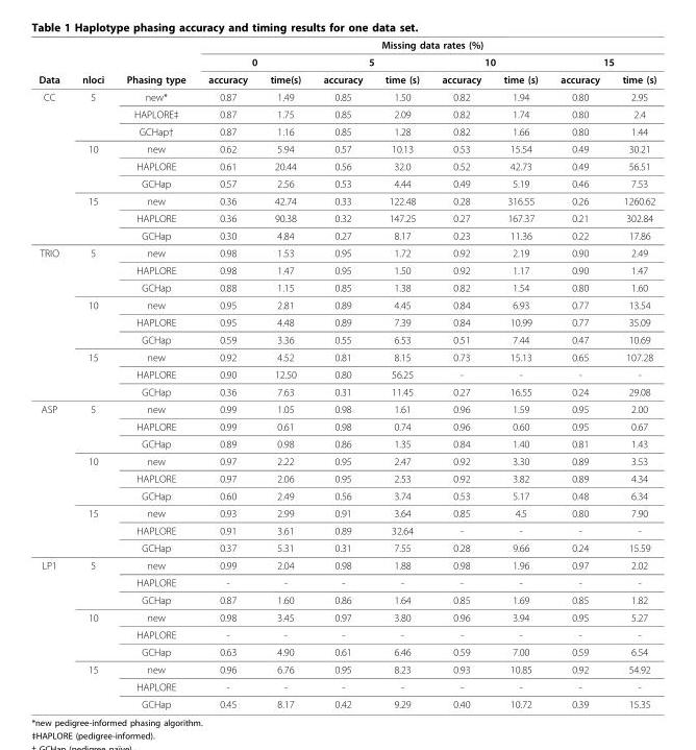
<table><thead><tr><td rowspan="3">Data</td><td rowspan="3">nloci</td><td rowspan="3">Phasing type</td><td colspan="8">Missing data rates (%)</td></tr><tr><td colspan="2">0</td><td colspan="2">5</td><td colspan="2">10</td><td colspan="2">15</td></tr><tr><td>accuracy</td><td>time(s)</td><td>accuracy</td><td>time (s)</td><td>accuracy</td><td>time (s)</td><td>accuracy</td><td>time (s)</td></tr></thead><tbody><tr><td rowspan="9">CC</td><td>5</td><td>new*</td><td>0.87</td><td>1.49</td><td>0.85</td><td>1.50</td><td>0.82</td><td>1.94</td><td>0.80</td><td>2.95</td></tr><tr><td></td><td>HAPLORE‡</td><td>0.87</td><td>1.75</td><td>0.85</td><td>2.09</td><td>0.82</td><td>1.74</td><td>0.80</td><td>2.4</td></tr><tr><td></td><td>GCHap†</td><td>0.87</td><td>1.16</td><td>0.85</td><td>1.28</td><td>0.82</td><td>1.66</td><td>0.80</td><td>1.44</td></tr><tr><td>10</td><td>new</td><td>0.62</td><td>5.94</td><td>0.57</td><td>10.13</td><td>0.53</td><td>15.54</td><td>0.49</td><td>30.21</td></tr><tr><td></td><td>HAPLORE</td><td>0.61</td><td>20.44</td><td>0.56</td><td>32.0</td><td>0.52</td><td>42.73</td><td>0.49</td><td>56.51</td></tr><tr><td></td><td>GCHap</td><td>0.57</td><td>2.56</td><td>0.53</td><td>4.44</td><td>0.49</td><td>5.19</td><td>0.46</td><td>7.53</td></tr><tr><td>15</td><td>new</td><td>0.36</td><td>42.74</td><td>0.33</td><td>122.48</td><td>0.28</td><td>316.55</td><td>0.26</td><td>1260.62</td></tr><tr><td></td><td>HAPLORE</td><td>0.36</td><td>90.38</td><td>0.32</td><td>147.25</td><td>0.27</td><td>167.37</td><td>0.21</td><td>302.84</td></tr><tr><td></td><td>GCHap</td><td>0.30</td><td>4.84</td><td>0.27</td><td>8.17</td><td>0.23</td><td>11.36</td><td>0.22</td><td>17.86</td></tr><tr><td rowspan="9">TRIO</td><td>5</td><td>new</td><td>0.98</td><td>1.53</td><td>0.95</td><td>1.72</td><td>0.92</td><td>2.19</td><td>0.90</td><td>2.49</td></tr><tr><td></td><td>HAPLORE</td><td>0.98</td><td>1.47</td><td>0.95</td><td>1.50</td><td>0.92</td><td>1.17</td><td>0.90</td><td>1.47</td></tr><tr><td></td><td>GCHap</td><td>0.88</td><td>1.15</td><td>0.85</td><td>1.38</td><td>0.82</td><td>1.54</td><td>0.80</td><td>1.60</td></tr><tr><td>10</td><td>new</td><td>0.95</td><td>2.81</td><td>0.89</td><td>4.45</td><td>0.84</td><td>6.93</td><td>0.77</td><td>13.54</td></tr><tr><td></td><td>HAPLORE</td><td>0.95</td><td>4.48</td><td>0.89</td><td>7.39</td><td>0.84</td><td>10.99</td><td>0.77</td><td>35.09</td></tr><tr><td></td><td>GCHap</td><td>0.59</td><td>3.36</td><td>0.55</td><td>6.53</td><td>0.51</td><td>7.44</td><td>0.47</td><td>10.69</td></tr><tr><td>15</td><td>new</td><td>0.92</td><td>4.52</td><td>0.81</td><td>8.15</td><td>0.73</td><td>15.13</td><td>0.65</td><td>107.28</td></tr><tr><td></td><td>HAPLORE</td><td>0.90</td><td>12.50</td><td>0.80</td><td>56.25</td><td>-</td><td>-</td><td>-</td><td>-</td></tr><tr><td></td><td>GCHap</td><td>0.36</td><td>7.63</td><td>0.31</td><td>11.45</td><td>0.27</td><td>16.55</td><td>0.24</td><td>29.08</td></tr><tr><td rowspan="9">ASP</td><td>5</td><td>new</td><td>0.99</td><td>1.05</td><td>0.98</td><td>1.61</td><td>0.96</td><td>1.59</td><td>0.95</td><td>2.00</td></tr><tr><td></td><td>HAPLORE</td><td>0.99</td><td>0.61</td><td>0.98</td><td>0.74</td><td>0.96</td><td>0.60</td><td>0.95</td><td>0.67</td></tr><tr><td></td><td>GCHap</td><td>0.89</td><td>0.98</td><td>0.86</td><td>1.35</td><td>0.84</td><td>1.40</td><td>0.81</td><td>1.43</td></tr><tr><td>10</td><td>new</td><td>0.97</td><td>2.22</td><td>0.95</td><td>2.47</td><td>0.92</td><td>3.30</td><td>0.89</td><td>3.53</td></tr><tr><td></td><td>HAPLORE</td><td>0.97</td><td>2.06</td><td>0.95</td><td>2.53</td><td>0.92</td><td>3.82</td><td>0.89</td><td>4.34</td></tr><tr><td></td><td>GCHap</td><td>0.60</td><td>2.49</td><td>0.56</td><td>3.74</td><td>0.53</td><td>5.17</td><td>0.48</td><td>6.34</td></tr><tr><td>15</td><td>new</td><td>0.93</td><td>2.99</td><td>0.91</td><td>3.64</td><td>0.85</td><td>4.5</td><td>0.80</td><td>7.90</td></tr><tr><td></td><td>HAPLORE</td><td>0.91</td><td>3.61</td><td>0.89</td><td>32.64</td><td>-</td><td>-</td><td>-</td><td>-</td></tr><tr><td></td><td>GCHap</td><td>0.37</td><td>5.31</td><td>0.31</td><td>7.55</td><td>0.28</td><td>9.66</td><td>0.24</td><td>15.59</td></tr><tr><td rowspan="9">LP1</td><td>5</td><td>new</td><td>0.99</td><td>2.04</td><td>0.98</td><td>1.88</td><td>0.98</td><td>1.96</td><td>0.97</td><td>2.02</td></tr><tr><td></td><td>HAPLORE</td><td>-</td><td>-</td><td>-</td><td>-</td><td>-</td><td>-</td><td>-</td><td>-</td></tr><tr><td></td><td>GCHap</td><td>0.87</td><td>1.60</td><td>0.86</td><td>1.64</td><td>0.85</td><td>1.69</td><td>0.85</td><td>1.82</td></tr><tr><td>10</td><td>new</td><td>0.98</td><td>3.45</td><td>0.97</td><td>3.80</td><td>0.96</td><td>3.94</td><td>0.95</td><td>5.27</td></tr><tr><td></td><td>HAPLORE</td><td>-</td><td>-</td><td>-</td><td>-</td><td>-</td><td>-</td><td>-</td><td>-</td></tr><tr><td></td><td>GCHap</td><td>0.63</td><td>4.90</td><td>0.61</td><td>6.46</td><td>0.59</td><td>7.00</td><td>0.59</td><td>6.54</td></tr><tr><td>15</td><td>new</td><td>0.96</td><td>6.76</td><td>0.95</td><td>8.23</td><td>0.93</td><td>10.85</td><td>0.92</td><td>54.92</td></tr><tr><td></td><td>HAPLORE</td><td>-</td><td>-</td><td>-</td><td>-</td><td>-</td><td>-</td><td>-</td><td>-</td></tr><tr><td></td><td>GCHap</td><td>0.45</td><td>8.17</td><td>0.42</td><td>9.29</td><td>0.40</td><td>10.72</td><td>0.39</td><td>15.35</td></tr></tbody></table>